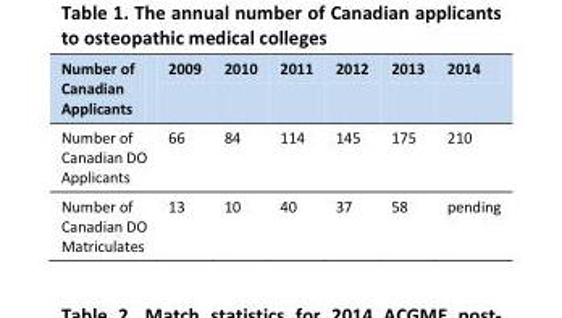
<table><thead><tr><td>Number of Canadian Applicants</td><td>2009</td><td>2010</td><td>2011</td><td>2012</td><td>2013</td><td>2014</td></tr></thead><tbody><tr><td>Number of Canadian DO Applicants</td><td>66</td><td>84</td><td>114</td><td>145</td><td>175</td><td>210</td></tr><tr><td>Number of Canadian DO Matriculates</td><td>13</td><td>10</td><td>40</td><td>37</td><td>58</td><td>pending</td></tr></tbody></table>